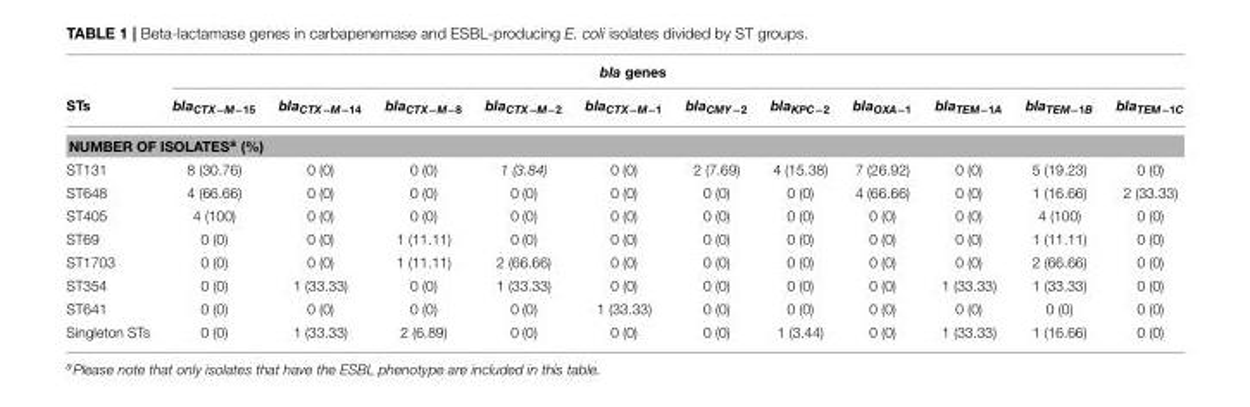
<table><thead><tr><td rowspan="2">STs</td><td colspan="11">bla genes</td></tr><tr><td>blaCTX−M−15</td><td>blaCTX−M−14</td><td>blaCTX−M−8</td><td>blaCTX−M−2</td><td>blaCTX−M−1</td><td>blaCMY−2</td><td>blaKPC−2</td><td>blaOXA−1</td><td>blaTEM−1A</td><td>blaTEM−1B</td><td>blaTEM−1C</td></tr></thead><tbody><tr><td colspan="12">NUMBER OF ISOLATES<sup>a</sup> (%)</td></tr><tr><td>ST131</td><td>8 (30.76)</td><td>0 (0)</td><td>0 (0)</td><td>1 (3.84)</td><td>0 (0)</td><td>2 (7.69)</td><td>4 (15.38)</td><td>7 (26.92)</td><td>0 (0)</td><td>5 (19.23)</td><td>0 (0)</td></tr><tr><td>ST648</td><td>4 (66.66)</td><td>0 (0)</td><td>0 (0)</td><td>0 (0)</td><td>0 (0)</td><td>0 (0)</td><td>0 (0)</td><td>4 (66.66)</td><td>0 (0)</td><td>1 (16.66)</td><td>2 (33.33)</td></tr><tr><td>ST405</td><td>4 (100)</td><td>0 (0)</td><td>0 (0)</td><td>0 (0)</td><td>0 (0)</td><td>0 (0)</td><td>0 (0)</td><td>0 (0)</td><td>0 (0)</td><td>4 (100)</td><td>0 (0)</td></tr><tr><td>ST69</td><td>0 (0)</td><td>0 (0)</td><td>1 (11.11)</td><td>0 (0)</td><td>0 (0)</td><td>0 (0)</td><td>0 (0)</td><td>0 (0)</td><td>0 (0)</td><td>1 (11.11)</td><td>0 (0)</td></tr><tr><td>ST1703</td><td>0 (0)</td><td>0 (0)</td><td>1 (11.11)</td><td>2 (66.66)</td><td>0 (0)</td><td>0 (0)</td><td>0 (0)</td><td>0 (0)</td><td>0 (0)</td><td>2 (66.66)</td><td>0 (0)</td></tr><tr><td>ST354</td><td>0 (0)</td><td>1 (33.33)</td><td>0 (0)</td><td>1 (33.33)</td><td>0 (0)</td><td>0 (0)</td><td>0 (0)</td><td>0 (0)</td><td>1 (33.33)</td><td>1 (33.33)</td><td>0 (0)</td></tr><tr><td>ST641</td><td>0 (0)</td><td>0 (0)</td><td>0 (0)</td><td>0 (0)</td><td>1 (33.33)</td><td>0 (0)</td><td>0 (0)</td><td>0 (0)</td><td>0 (0)</td><td>0 (0)</td><td>0 (0)</td></tr><tr><td>Singleton STs</td><td>0 (0)</td><td>1 (33.33)</td><td>2 (6.89)</td><td>0 (0)</td><td>0 (0)</td><td>0 (0)</td><td>1 (3.44)</td><td>0 (0)</td><td>1 (33.33)</td><td>1 (16.66)</td><td>0 (0)</td></tr></tbody></table>